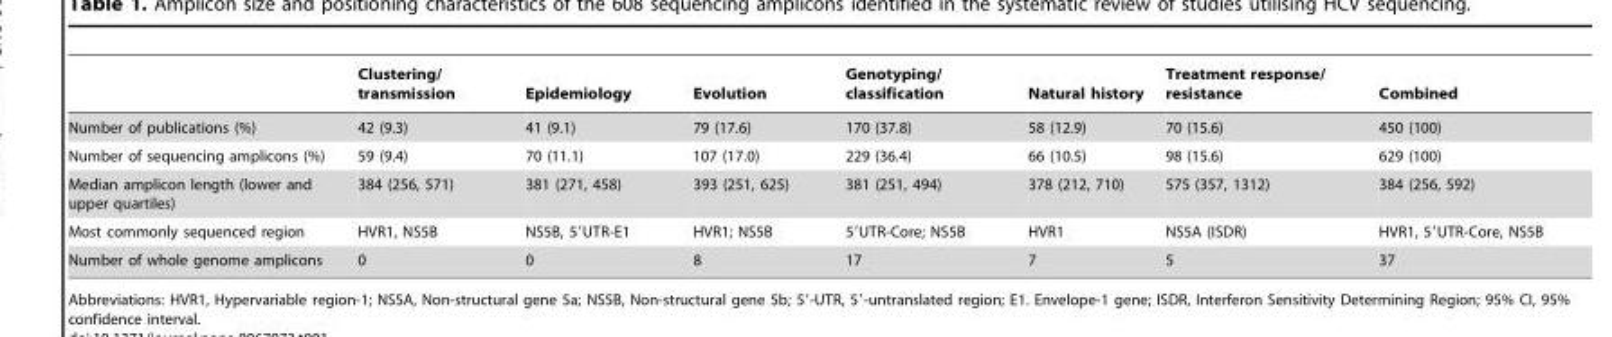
<table><thead><tr><td></td><td>Clustering/ transmission</td><td>Epidemiology</td><td>Evolution</td><td>Genotyping/ classification</td><td>Natural history</td><td>Treatment response/ resistance</td><td>Combined</td></tr></thead><tbody><tr><td>Number of publications (%)</td><td>42 (9.3)</td><td>41 (9.1)</td><td>79 (17.6)</td><td>170 (37.8)</td><td>58 (12.9)</td><td>70 (15.6)</td><td>450 (100)</td></tr><tr><td>Number of sequencing amplicons (%)</td><td>59 (9.4)</td><td>70 (11.1)</td><td>107 (17.0)</td><td>229 (36.4)</td><td>66 (10.5)</td><td>98 (15.6)</td><td>629 (100)</td></tr><tr><td>Median amplicon length (lower and upper quartiles)</td><td>384 (256, 571)</td><td>381 (271, 458)</td><td>393 (251, 625)</td><td>381 (251, 494)</td><td>378 (212, 710)</td><td>575 (357, 1312)</td><td>384 (256, 592)</td></tr><tr><td>Most commonly sequenced region</td><td>HVR1, NS5B</td><td>NS5B, 5′UTR-E1</td><td>HVR1; NS5B</td><td>5′UTR-Core; NS5B</td><td>HVR1</td><td>NS5A (ISDR)</td><td>HVR1, 5′UTR-Core, NS5B</td></tr><tr><td>Number of whole genome amplicons</td><td>0</td><td>0</td><td>8</td><td>17</td><td>7</td><td>5</td><td>37</td></tr></tbody></table>